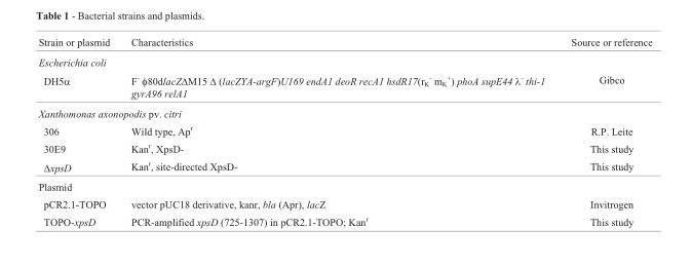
<table><thead><tr><td>Strain or plasmid</td><td>Characteristics</td><td>Source or reference</td></tr></thead><tbody><tr><td colspan="3">Escherichia coli</td></tr><tr><td>DH5α</td><td>F<sup>-</sup> φ80dlacZΔM15 Δ (lacZYA-argF)U169 endA1 deoR recA1 hsdR17(r<sub>K</sub> <sup>-</sup> m<sub>K</sub> <sup>+</sup>) phoA supE44 λ<sup>-</sup> thi-1 gyrA96 relA1</td><td>Gibco</td></tr><tr><td colspan="3">Xanthomonas axonopodis pv. citri</td></tr><tr><td>306</td><td>Wild type, Ap<sup>r</sup></td><td>R.P. Leite</td></tr><tr><td>30E9</td><td>Kan<sup>r</sup>, XpsD-</td><td>This study</td></tr><tr><td>ΔxpsD</td><td>Kan<sup>r</sup>, site-directed XpsD-</td><td>This study</td></tr><tr><td colspan="3">Plasmid</td></tr><tr><td>pCR2.1-TOPO</td><td>vector pUC18 derivative, kanr, bla (Apr), lacZ</td><td>Invitrogen</td></tr><tr><td>TOPO-xpsD</td><td>PCR-amplified xpsD (725-1307) in pCR2.1-TOPO; Kan<sup>r</sup></td><td>This study</td></tr></tbody></table>